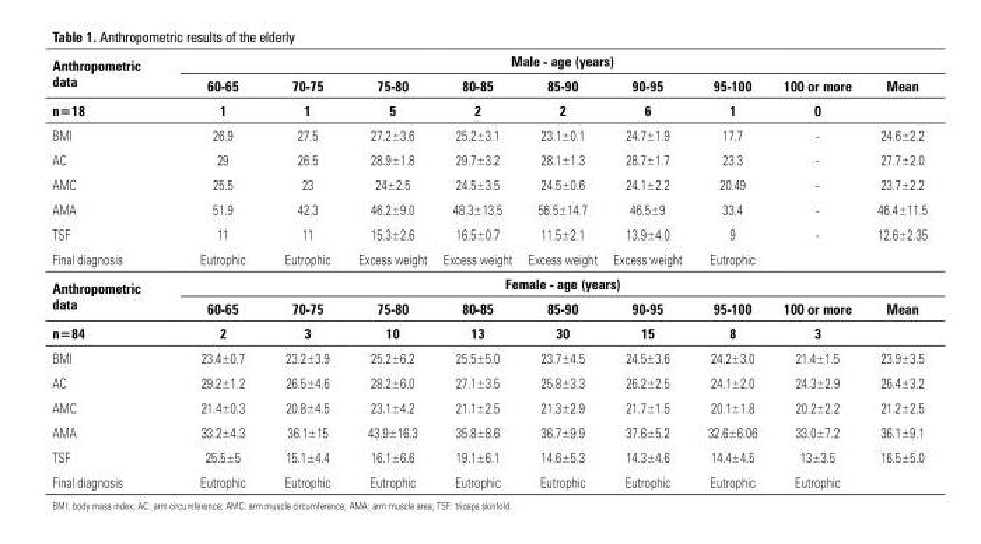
<table><thead><tr><td rowspan="3">Anthropometric data n=18</td><td colspan="9">Male - age (years)</td></tr><tr><td rowspan="2">60-65 1</td><td rowspan="2">70-75 1</td><td rowspan="2">75-80 5</td><td rowspan="2">80-85 2</td><td rowspan="2">85-90 2</td><td rowspan="2">90-95 6</td><td rowspan="2">95-100 1</td><td rowspan="2">100 or more 0</td><td rowspan="2">Mean</td></tr><tr></tr></thead><tbody><tr><td>BMI</td><td>26.9</td><td>27.5</td><td>27.2±3.6</td><td>25.2±3.1</td><td>23.1±0.1</td><td>24.7±1.9</td><td>17.7</td><td>-</td><td>24.6±2.2</td></tr><tr><td>AC</td><td>29</td><td>26.5</td><td>28.9±1.8</td><td>29.7±3.2</td><td>28.1±1.3</td><td>28.7±1.7</td><td>23.3</td><td>-</td><td>27.7±2.0</td></tr><tr><td>AMC</td><td>25.5</td><td>23</td><td>24±2.5</td><td>24.5±3.5</td><td>24.5±0.6</td><td>24.1±2.2</td><td>20.49</td><td>-</td><td>23.7±2.2</td></tr><tr><td>AMA</td><td>51.9</td><td>42.3</td><td>46.2±9.0</td><td>48.3±13.5</td><td>56.5±14.7</td><td>46.5±9</td><td>33.4</td><td>-</td><td>46.4±11.5</td></tr><tr><td>TSF</td><td>11</td><td>11</td><td>15.3±2.6</td><td>16.5±0.7</td><td>11.5±2.1</td><td>13.9±4.0</td><td>9</td><td>-</td><td>12.6±2.35</td></tr><tr><td>Final diagnosis</td><td>Eutrophic</td><td>Eutrophic</td><td>Excess weight</td><td>Excess weight</td><td>Excess weight</td><td>Excess weight</td><td>Eutrophic</td><td></td><td></td></tr><tr><td rowspan="2">Anthropometric data</td><td colspan="9">Female - age (years)</td></tr><tr><td>60-65</td><td>70-75</td><td>75-80</td><td>80-85</td><td>85-90</td><td>90-95</td><td>95-100</td><td>100 or more</td><td>Mean</td></tr><tr><td>n=84</td><td>2</td><td>3</td><td>10</td><td>13</td><td>30</td><td>15</td><td>8</td><td>3</td><td></td></tr><tr><td>BMI</td><td>23.4±0.7</td><td>23.2±3.9</td><td>25.2±6.2</td><td>25.5±5.0</td><td>23.7±4.5</td><td>24.5±3.6</td><td>24.2±3.0</td><td>21.4±1.5</td><td>23.9±3.5</td></tr><tr><td>AC</td><td>29.2±1.2</td><td>26.5±4.6</td><td>28.2±6.0</td><td>27.1±3.5</td><td>25.8±3.3</td><td>26.2±2.5</td><td>24.1±2.0</td><td>24.3±2.9</td><td>26.4±3.2</td></tr><tr><td>AMC</td><td>21.4±0.3</td><td>20.8±4.5</td><td>23.1±4.2</td><td>21.1±2.5</td><td>21.3±2.9</td><td>21.7±1.5</td><td>20.1±1.8</td><td>20.2±2.2</td><td>21.2±2.5</td></tr><tr><td>AMA</td><td>33.2±4.3</td><td>36.1±15</td><td>43.9±16.3</td><td>35.8±8.6</td><td>36.7±9.9</td><td>37.6±5.2</td><td>32.6±6.06</td><td>33.0±7.2</td><td>36.1±9.1</td></tr><tr><td>TSF</td><td>25.5±5</td><td>15.1±4.4</td><td>16.1±6.6</td><td>19.1±6.1</td><td>14.6±5.3</td><td>14.3±4.6</td><td>14.4±4.5</td><td>13±3.5</td><td>16.5±5.0</td></tr><tr><td>Final diagnosis</td><td>Eutrophic</td><td>Eutrophic</td><td>Eutrophic</td><td>Eutrophic</td><td>Eutrophic</td><td>Eutrophic</td><td>Eutrophic</td><td>Eutrophic</td><td></td></tr></tbody></table>